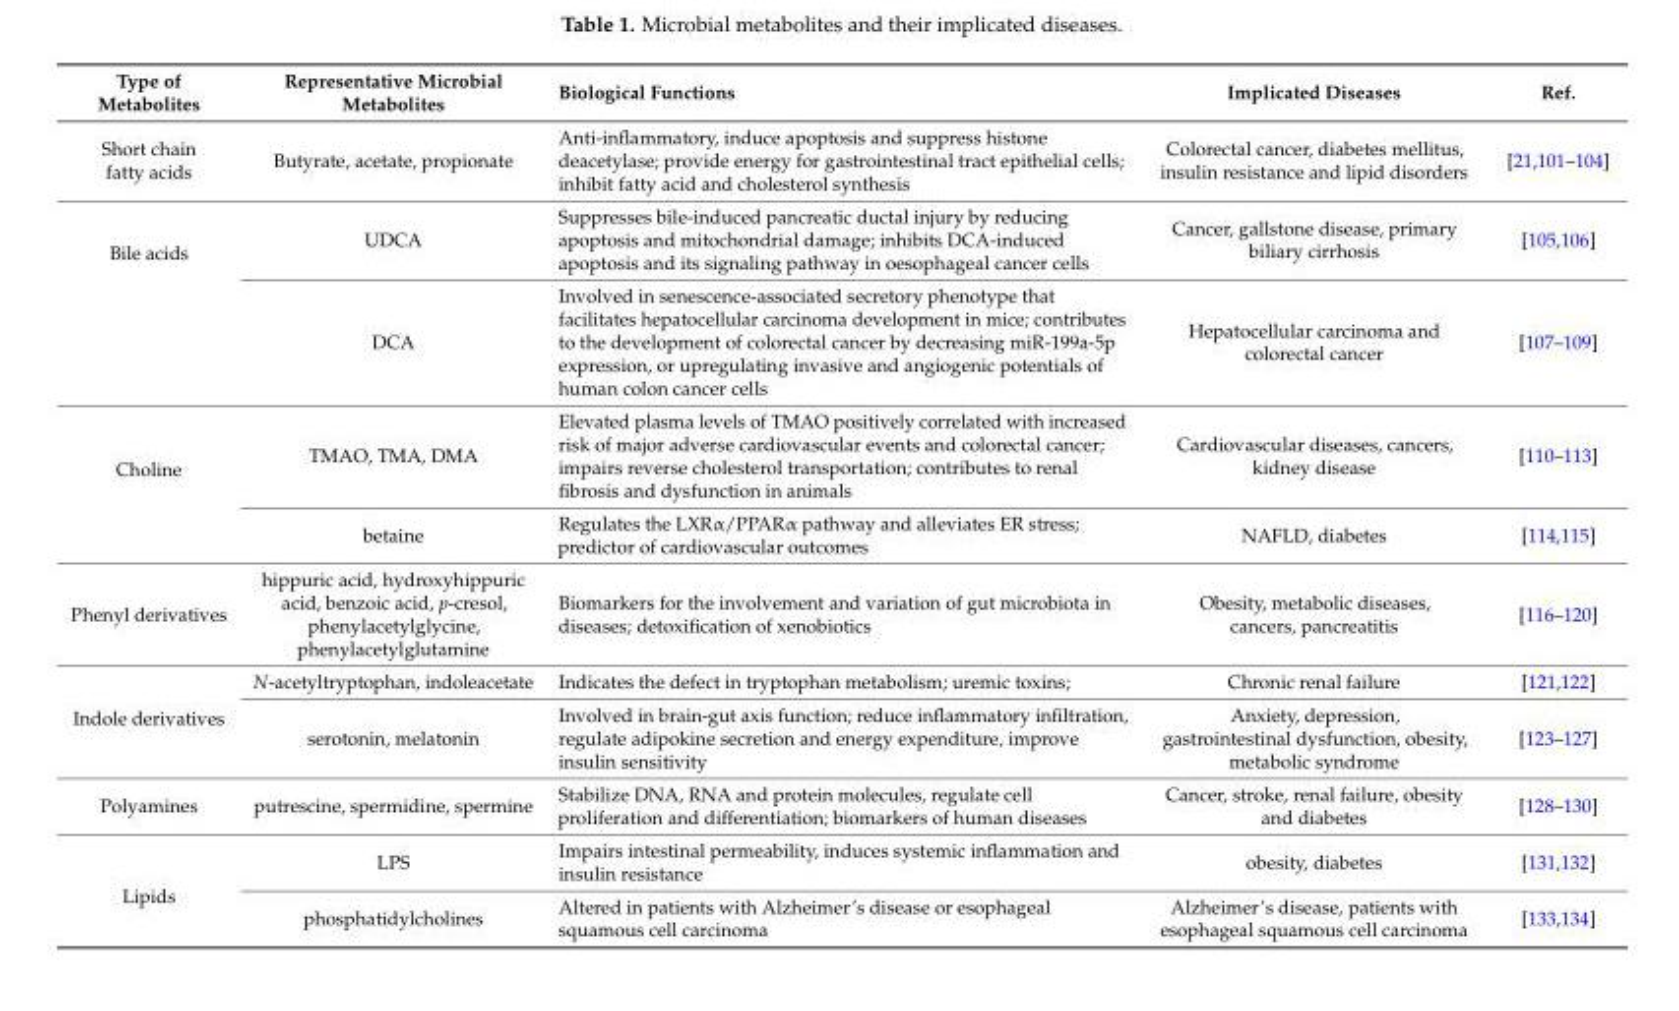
<table><thead><tr><td>Type of Metabolites</td><td>Representative Microbial Metabolites</td><td>Biological Functions</td><td>Implicated Diseases</td><td>Ref.</td></tr></thead><tbody><tr><td>Short chain fatty acids</td><td>Butyrate, acetate, propionate</td><td>Anti-inflammatory, induce apoptosis and suppress histone deacetylase; provide energy for gastrointestinal tract epithelial cells; inhibit fatty acid and cholesterol synthesis</td><td>Colorectal cancer, diabetes mellitus, insulin resistance and lipid disorders</td><td>[21,101–104]</td></tr><tr><td rowspan="2">Bile acids</td><td>UDCA</td><td>Suppresses bile-induced pancreatic ductal injury by reducing apoptosis and mitochondrial damage; inhibits DCA-induced apoptosis and its signaling pathway in oesophageal cancer cells</td><td>Cancer, gallstone disease, primary biliary cirrhosis</td><td>[105,106]</td></tr><tr><td>DCA</td><td>Involved in senescence-associated secretory phenotype that facilitates hepatocellular carcinoma development in mice; contributes to the development of colorectal cancer by decreasing miR-199a-5p expression, or upregulating invasive and angiogenic potentials of human colon cancer cells</td><td>Hepatocellular carcinoma and colorectal cancer</td><td>[107–109]</td></tr><tr><td rowspan="2">Choline</td><td>TMAO, TMA, DMA</td><td>Elevated plasma levels of TMAO positively correlated with increased risk of major adverse cardiovascular events and colorectal cancer; impairs reverse cholesterol transportation; contributes to renal fibrosis and dysfunction in animals</td><td>Cardiovascular diseases, cancers, kidney disease</td><td>[110–113]</td></tr><tr><td>betaine</td><td>Regulates the LXRα/PPARα pathway and alleviates ER stress; predictor of cardiovascular outcomes</td><td>NAFLD, diabetes</td><td>[114,115]</td></tr><tr><td>Phenyl derivatives</td><td>hippuric acid, hydroxyhippuric acid, benzoic acid, p-cresol, phenylacetylglycine, phenylacetylglutamine</td><td>Biomarkers for the involvement and variation of gut microbiota in diseases; detoxification of xenobiotics</td><td>Obesity, metabolic diseases, cancers, pancreatitis</td><td>[116–120]</td></tr><tr><td rowspan="2">Indole derivatives</td><td>N-acetyltryptophan, indoleacetate</td><td>Indicates the defect in tryptophan metabolism; uremic toxins;</td><td>Chronic renal failure</td><td>[121,122]</td></tr><tr><td>serotonin, melatonin</td><td>Involved in brain-gut axis function; reduce inflammatory infiltration, regulate adipokine secretion and energy expenditure, improve insulin sensitivity</td><td>Anxiety, depression, gastrointestinal dysfunction, obesity, metabolic syndrome</td><td>[123–127]</td></tr><tr><td>Polyamines</td><td>putrescine, spermidine, spermine</td><td>Stabilize DNA, RNA and protein molecules, regulate cell proliferation and differentiation; biomarkers of human diseases</td><td>Cancer, stroke, renal failure, obesity and diabetes</td><td>[128–130]</td></tr><tr><td rowspan="2">Lipids</td><td>LPS</td><td>Impairs intestinal permeability, induces systemic inflammation and insulin resistance</td><td>obesity, diabetes</td><td>[131,132]</td></tr><tr><td>phosphatidylcholines</td><td>Altered in patients with Alzheimer’s disease or esophageal squamous cell carcinoma</td><td>Alzheimer’s disease, patients with esophageal squamous cell carcinoma</td><td>[133,134]</td></tr></tbody></table>